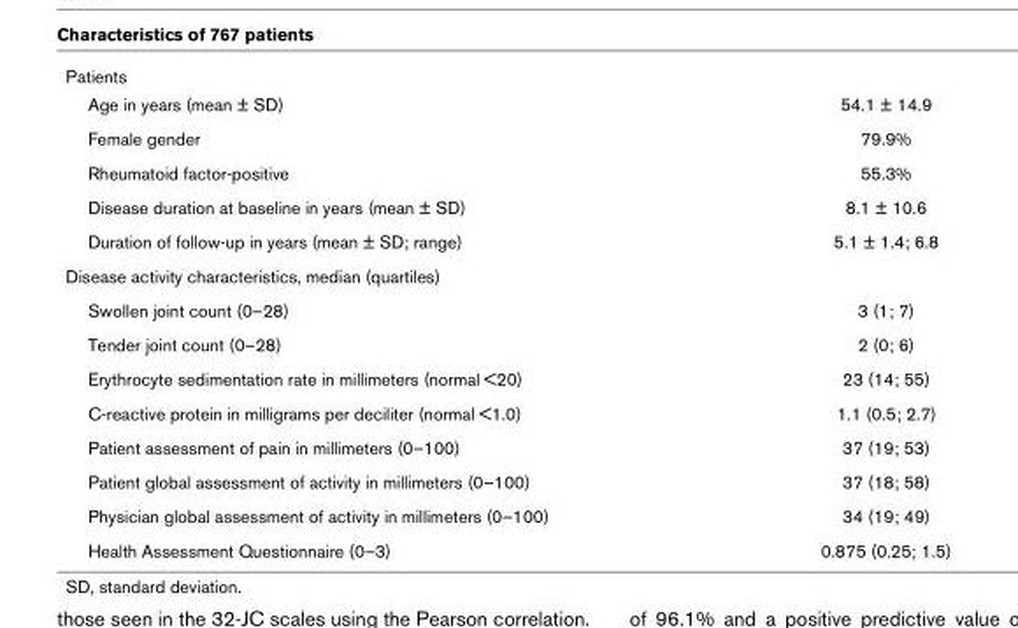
<table><tbody><tr><td colspan="2">Patients</td></tr><tr><td>Age in years (mean ± SD)</td><td>54.1 ± 14.9</td></tr><tr><td>Female gender</td><td>79.9%</td></tr><tr><td>Rheumatoid factor-positive</td><td>55.3%</td></tr><tr><td>Disease duration at baseline in years (mean ± SD)</td><td>8.1 ± 10.6</td></tr><tr><td>Duration of follow-up in years (mean ± SD; range)</td><td>5.1 ± 1.4; 6.8</td></tr><tr><td colspan="2">Disease activity characteristics, median (quartiles)</td></tr><tr><td>Swollen joint count (0–28)</td><td>3 (1; 7)</td></tr><tr><td>Tender joint count (0–28)</td><td>2 (0; 6)</td></tr><tr><td>Erythrocyte sedimentation rate in millimeters (normal &lt;20)</td><td>23 (14; 55)</td></tr><tr><td>C-reactive protein in milligrams per deciliter (normal &lt;1.0)</td><td>1.1 (0.5; 2.7)</td></tr><tr><td>Patient assessment of pain in millimeters (0–100)</td><td>37 (19; 53)</td></tr><tr><td>Patient global assessment of activity in millimeters (0–100)</td><td>37 (18; 58)</td></tr><tr><td>Physician global assessment of activity in millimeters (0–100)</td><td>34 (19; 49)</td></tr><tr><td>Health Assessment Questionnaire (0–3)</td><td>0.875 (0.25; 1.5)</td></tr></tbody></table>